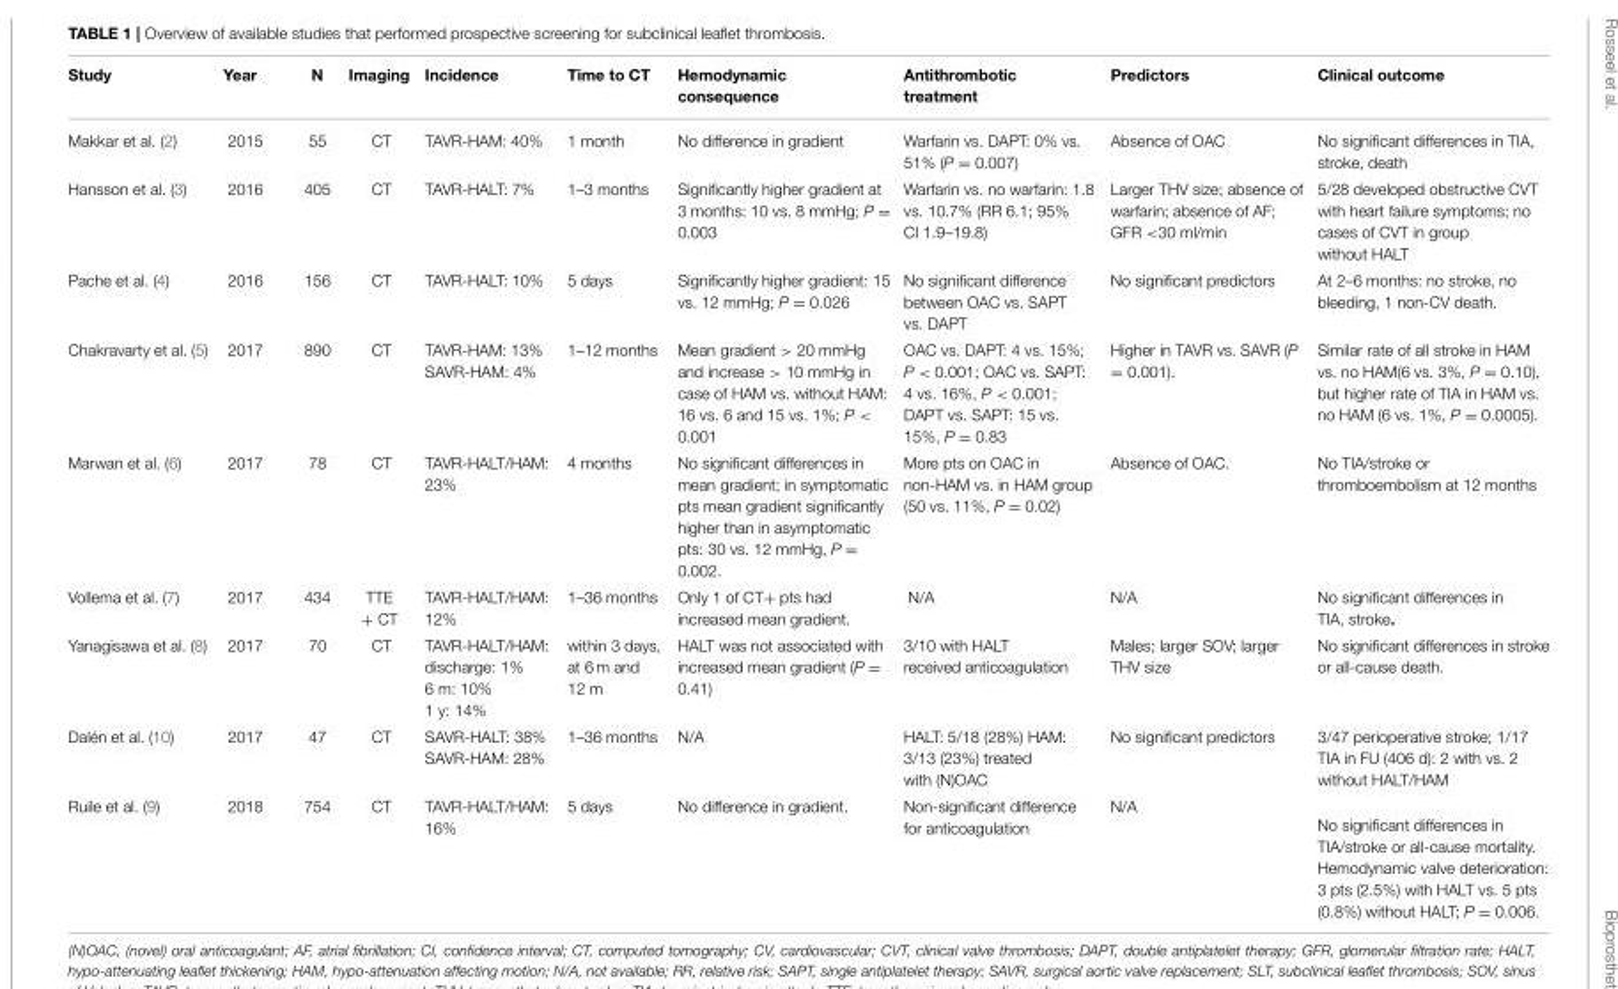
<table><thead><tr><td>Study</td><td>Year</td><td>N</td><td>Imaging</td><td>Incidence</td><td>Time to CT</td><td>Hemodynamic consequence</td><td>Antithrombotic treatment</td><td>Predictors</td><td>Clinical outcome</td></tr></thead><tbody><tr><td>Makkar et al. (2)</td><td>2015</td><td>55</td><td>CT</td><td>TAVR-HAM: 40%</td><td>1 month</td><td>No difference in gradient</td><td>Warfarin vs. DAPT: 0% vs. 51% (P = 0.007)</td><td>Absence of OAC</td><td>No significant differences in TIA, stroke, death</td></tr><tr><td>Hansson et al. (3)</td><td>2016</td><td>405</td><td>CT</td><td>TAVR-HALT: 7%</td><td>1–3 months</td><td>Significantly higher gradient at 3 months: 10 vs. 8 mmHg; P = 0.003</td><td>Warfarin vs. no warfarin: 1.8 vs. 10.7% (RR 6.1; 95% CI 1.9–19.8)</td><td>Larger THV size; absence of warfarin; absence of AF; GFR &lt;30 ml/min</td><td>5/28 developed obstructive CVT with heart failure symptoms; no cases of CVT in group without HALT</td></tr><tr><td>Pache et al. (4)</td><td>2016</td><td>156</td><td>CT</td><td>TAVR-HALT: 10%</td><td>5 days</td><td>Significantly higher gradient: 15 vs. 12 mmHg; P = 0.026</td><td>No significant difference between OAC vs. SAPT vs. DAPT</td><td>No significant predictors</td><td>At 2–6 months: no stroke, no bleeding, 1 non-CV death.</td></tr><tr><td>Chakravarty et al. (5)</td><td>2017</td><td>890</td><td>CT</td><td>TAVR-HAM: 13% SAVR-HAM: 4%</td><td>1–12 months</td><td>Mean gradient &gt; 20 mmHg and increase &gt; 10 mmHg in case of HAM vs. without HAM: 16 vs. 6 and 15 vs. 1%; P &lt; 0.001</td><td>OAC vs. DAPT: 4 vs. 15%; P &lt; 0.001; OAC vs. SAPT: 4 vs. 16%, P &lt; 0.001; DAPT vs. SAPT: 15 vs. 15%, P = 0.83</td><td>Higher in TAVR vs. SAVR (P = 0.001).</td><td>Similar rate of all stroke in HAM vs. no HAM(6 vs. 3%, P = 0.10), but higher rate of TIA in HAM vs. no HAM (6 vs. 1%, P = 0.0005).</td></tr><tr><td>Marwan et al. (6)</td><td>2017</td><td>78</td><td>CT</td><td>TAVR-HALT/HAM: 23%</td><td>4 months</td><td>No significant differences in mean gradient; in symptomatic pts mean gradient significantly higher than in asymptomatic pts: 30 vs. 12 mmHg, P = 0.002.</td><td>More pts on OAC in non-HAM vs. in HAM group (50 vs. 11%, P = 0.02)</td><td>Absence of OAC.</td><td>No TIA/stroke or thromboembolism at 12 months</td></tr><tr><td>Vollema et al. (7)</td><td>2017</td><td>434</td><td>TTE + CT</td><td>TAVR-HALT/HAM: 12%</td><td>1–36 months</td><td>Only 1 of CT+ pts had increased mean gradient.</td><td>N/A</td><td>N/A</td><td>No significant differences in TIA, stroke.</td></tr><tr><td>Yanagisawa et al. (8)</td><td>2017</td><td>70</td><td>CT</td><td>TAVR-HALT/HAM: discharge: 1% 6 m: 10% 1 y: 14%</td><td>within 3 days, at 6 m and 12 m</td><td>HALT was not associated with increased mean gradient (P = 0.41)</td><td>3/10 with HALT received anticoagulation</td><td>Males; larger SOV; larger THV size</td><td>No significant differences in stroke or all-cause death.</td></tr><tr><td>Dalén et al. (10)</td><td>2017</td><td>47</td><td>CT</td><td>SAVR-HALT: 38% SAVR-HAM: 28%</td><td>1–36 months</td><td>N/A</td><td>HALT: 5/18 (28%) HAM: 3/13 (23%) treated with (N)OAC</td><td>No significant predictors</td><td>3/47 perioperative stroke; 1/17 TIA in FU (406 d): 2 with vs. 2 without HALT/HAM</td></tr><tr><td>Ruile et al. (9)</td><td>2018</td><td>754</td><td>CT</td><td>TAVR-HALT/HAM: 16%</td><td>5 days</td><td>No difference in gradient.</td><td>Non-significant difference for anticoagulation</td><td>N/A</td><td>No significant differences in TIA/stroke or all-cause mortality. Hemodynamic valve deterioration: 3 pts (2.5%) with HALT vs. 5 pts (0.8%) without HALT; P = 0.006.</td></tr></tbody></table>